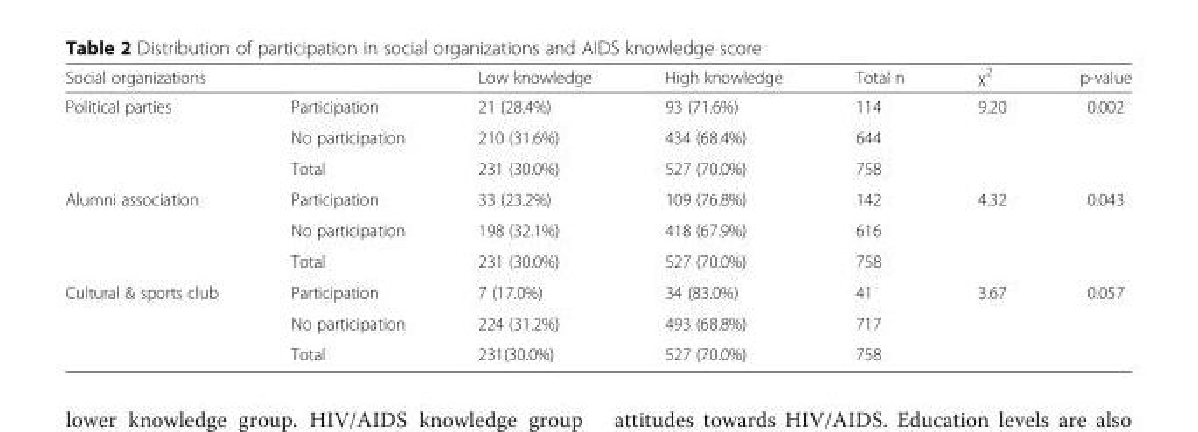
<table><thead><tr><td>Social organizations</td><td></td><td>Low knowledge</td><td>High knowledge</td><td>Total n</td><td>χ<sup>2</sup></td><td>p-value</td></tr></thead><tbody><tr><td rowspan="3">Political parties</td><td>Participation</td><td>21 (28.4%)</td><td>93 (71.6%)</td><td>114</td><td rowspan="3">9.20</td><td rowspan="3">0.002</td></tr><tr><td>No participation</td><td>210 (31.6%)</td><td>434 (68.4%)</td><td>644</td></tr><tr><td>Total</td><td>231 (30.0%)</td><td>527 (70.0%)</td><td>758</td></tr><tr><td rowspan="3">Alumni association</td><td>Participation</td><td>33 (23.2%)</td><td>109 (76.8%)</td><td>142</td><td rowspan="3">4.32</td><td rowspan="3">0.043</td></tr><tr><td>No participation</td><td>198 (32.1%)</td><td>418 (67.9%)</td><td>616</td></tr><tr><td>Total</td><td>231 (30.0%)</td><td>527 (70.0%)</td><td>758</td></tr><tr><td rowspan="3">Cultural &amp; sports club</td><td>Participation</td><td>7 (17.0%)</td><td>34 (83.0%)</td><td>41</td><td rowspan="3">3.67</td><td rowspan="3">0.057</td></tr><tr><td>No participation</td><td>224 (31.2%)</td><td>493 (68.8%)</td><td>717</td></tr><tr><td>Total</td><td>231(30.0%)</td><td>527 (70.0%)</td><td>758</td></tr></tbody></table>